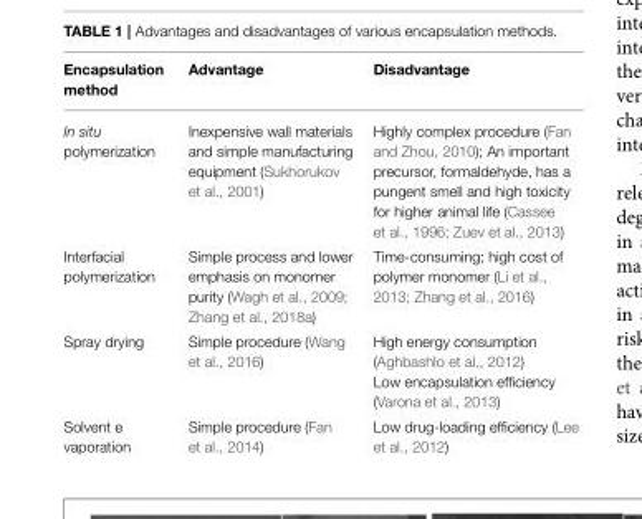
<table><thead><tr><td>Encapsulation method</td><td>Advantage</td><td>Disadvantage</td></tr></thead><tbody><tr><td>In situ polymerization</td><td>Inexpensive wall materials and simple manufacturing equipment (Sukhorukov et al., 2001)</td><td>Highly complex procedure (Fan and Zhou, 2010); An important precursor, formaldehyde, has a pungent smell and high toxicity for higher animal life (Cassee et al., 1996; Zuev et al., 2013)</td></tr><tr><td>Interfacial polymerization</td><td>Simple process and lower emphasis on monomer purity (Wagh et al., 2009; Zhang et al., 2018a)</td><td>Time-consuming; high cost of polymer monomer (Li et al., 2013; Zhang et al., 2016)</td></tr><tr><td>Spray drying</td><td>Simple procedure (Wang et al., 2016)</td><td>High energy consumption (Aghbashlo et al., 2012) Low encapsulation efficiency (Varona et al., 2013)</td></tr><tr><td>Solvent e vaporation</td><td>Simple procedure (Fan et al., 2014)</td><td>Low drug-loading efficiency (Lee et al., 2012)</td></tr></tbody></table>